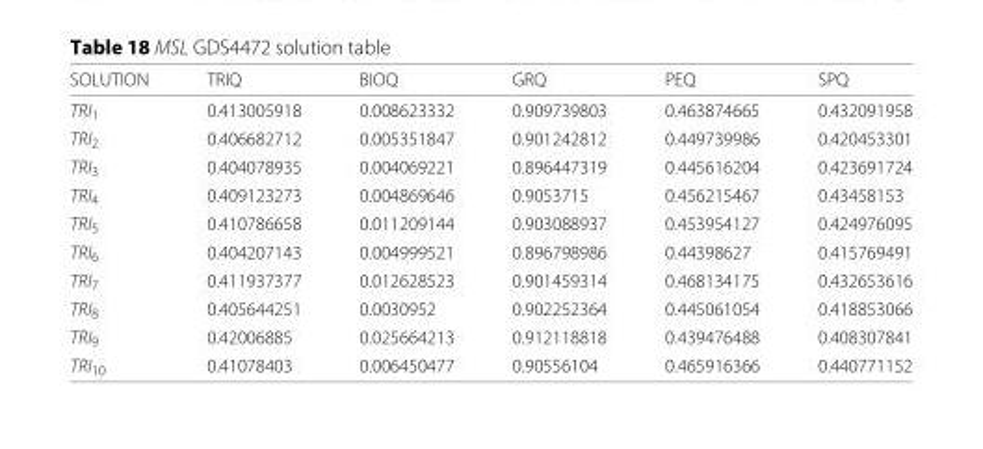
<table><thead><tr><td>SOLUTION</td><td>TRIQ</td><td>BIOQ</td><td>GRQ</td><td>PEQ</td><td>SPQ</td></tr></thead><tbody><tr><td>TRI<sub>1</sub></td><td>0.413005918</td><td>0.008623332</td><td>0.909739803</td><td>0.463874665</td><td>0.432091958</td></tr><tr><td>TRI<sub>2</sub></td><td>0.406682712</td><td>0.005351847</td><td>0.901242812</td><td>0.449739986</td><td>0.420453301</td></tr><tr><td>TRI<sub>3</sub></td><td>0.404078935</td><td>0.004069221</td><td>0.896447319</td><td>0.445616204</td><td>0.423691724</td></tr><tr><td>TRI<sub>4</sub></td><td>0.409123273</td><td>0.004869646</td><td>0.9053715</td><td>0.456215467</td><td>0.43458153</td></tr><tr><td>TRI<sub>5</sub></td><td>0.410786658</td><td>0.011209144</td><td>0.903088937</td><td>0.453954127</td><td>0.424976095</td></tr><tr><td>TRI<sub>6</sub></td><td>0.404207143</td><td>0.004999521</td><td>0.896798986</td><td>0.44398627</td><td>0.415769491</td></tr><tr><td>TRI<sub>7</sub></td><td>0.411937377</td><td>0.012628523</td><td>0.901459314</td><td>0.468134175</td><td>0.432653616</td></tr><tr><td>TRI<sub>8</sub></td><td>0.405644251</td><td>0.0030952</td><td>0.902252364</td><td>0.445061054</td><td>0.418853066</td></tr><tr><td>TRI<sub>9</sub></td><td>0.42006885</td><td>0.025664213</td><td>0.912118818</td><td>0.439476488</td><td>0.408307841</td></tr><tr><td>TRI<sub>10</sub></td><td>0.41078403</td><td>0.006450477</td><td>0.90556104</td><td>0.465916366</td><td>0.440771152</td></tr></tbody></table>